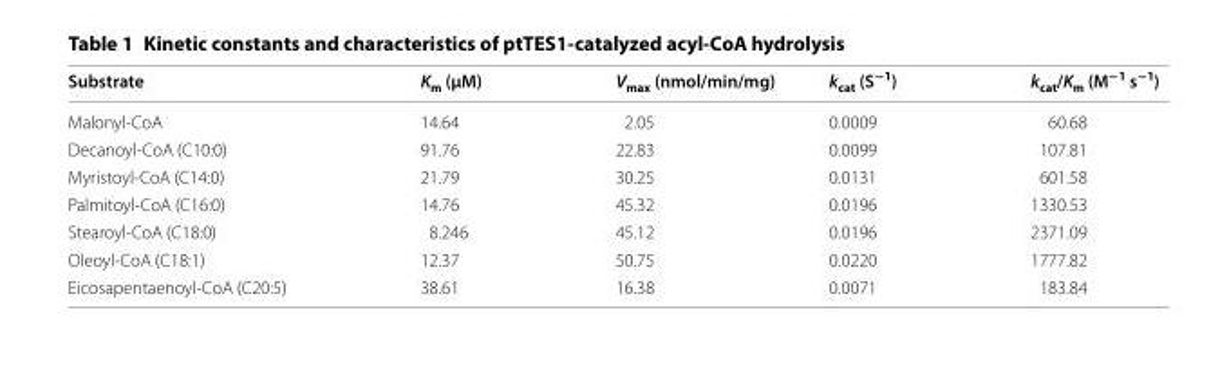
<table><thead><tr><td>Substrate</td><td>K<sub>m</sub> (μM)</td><td>V<sub>max</sub> (nmol/min/mg)</td><td>k<sub>cat</sub> (S<sup>−1</sup>)</td><td>k<sub>cat</sub>/K<sub>m</sub> (M<sup>−1</sup> s<sup>−1</sup>)</td></tr></thead><tbody><tr><td>Malonyl-CoA</td><td>14.64</td><td>2.05</td><td>0.0009</td><td>60.68</td></tr><tr><td>Decanoyl-CoA (C10:0)</td><td>91.76</td><td>22.83</td><td>0.0099</td><td>107.81</td></tr><tr><td>Myristoyl-CoA (C14:0)</td><td>21.79</td><td>30.25</td><td>0.0131</td><td>601.58</td></tr><tr><td>Palmitoyl-CoA (C16:0)</td><td>14.76</td><td>45.32</td><td>0.0196</td><td>1330.53</td></tr><tr><td>Stearoyl-CoA (C18:0)</td><td>8.246</td><td>45.12</td><td>0.0196</td><td>2371.09</td></tr><tr><td>Oleoyl-CoA (C18:1)</td><td>12.37</td><td>50.75</td><td>0.0220</td><td>1777.82</td></tr><tr><td>Eicosapentaenoyl-CoA (C20:5)</td><td>38.61</td><td>16.38</td><td>0.0071</td><td>183.84</td></tr></tbody></table>